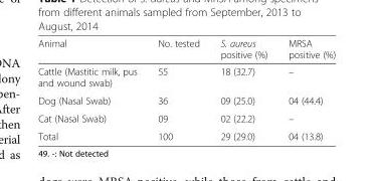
<table><thead><tr><td>Animal</td><td>No. tested</td><td>S. aureus positive (%)</td><td>MRSA positive (%)</td></tr></thead><tbody><tr><td>Cattle (Mastitic milk, pus and wound swab)</td><td>55</td><td>18 (32.7)</td><td>–</td></tr><tr><td>Dog (Nasal Swab)</td><td>36</td><td>09 (25.0)</td><td>04 (44.4)</td></tr><tr><td>Cat (Nasal Swab)</td><td>09</td><td>02 (22.2)</td><td>–</td></tr><tr><td>Total</td><td>100</td><td>29 (29.0)</td><td>04 (13.8)</td></tr></tbody></table>